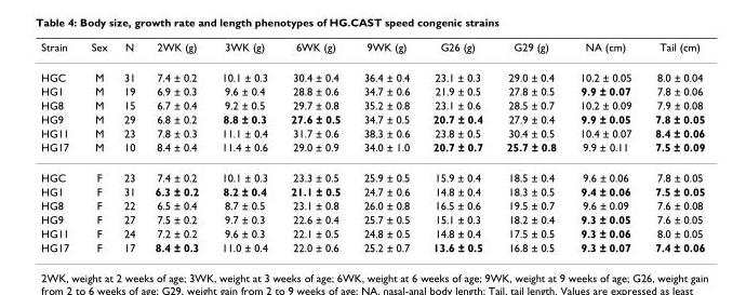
<table><thead><tr><td>Strain</td><td>Sex</td><td>N</td><td>2WK (g)</td><td>3WK (g)</td><td>6WK (g)</td><td>9WK (g)</td><td>G26 (g)</td><td>G29 (g)</td><td>NA (cm)</td><td>Tail (cm)</td></tr></thead><tbody><tr><td>HGC</td><td>M</td><td>31</td><td>7.4 ± 0.2</td><td>10.1 ± 0.3</td><td>30.4 ± 0.4</td><td>36.4 ± 0.4</td><td>23.1 ± 0.3</td><td>29.0 ± 0.4</td><td>10.2 ± 0.05</td><td>8.0 ± 0.04</td></tr><tr><td>HG1</td><td>M</td><td>19</td><td>6.9 ± 0.3</td><td>9.6 ± 0.4</td><td>28.8 ± 0.6</td><td>34.7 ± 0.6</td><td>21.9 ± 0.5</td><td>27.8 ± 0.5</td><td>9.9 ± 0.07</td><td>7.8 ± 0.06</td></tr><tr><td>HG8</td><td>M</td><td>15</td><td>6.7 ± 0.4</td><td>9.2 ± 0.5</td><td>29.7 ± 0.8</td><td>35.2 ± 0.8</td><td>23.1 ± 0.6</td><td>28.5 ± 0.7</td><td>10.2 ± 0.09</td><td>7.9 ± 0.08</td></tr><tr><td>HG9</td><td>M</td><td>29</td><td>6.8 ± 0.2</td><td>8.8 ± 0.3</td><td>27.6 ± 0.5</td><td>34.7 ± 0.5</td><td>20.7 ± 0.4</td><td>27.9 ± 0.4</td><td>9.9 ± 0.05</td><td>7.8 ± 0.05</td></tr><tr><td>HG11</td><td>M</td><td>23</td><td>7.8 ± 0.3</td><td>11.1 ± 0.4</td><td>31.7 ± 0.6</td><td>38.3 ± 0.6</td><td>23.8 ± 0.5</td><td>30.4 ± 0.5</td><td>10.4 ± 0.07</td><td>8.4 ± 0.06</td></tr><tr><td>HG17</td><td>M</td><td>10</td><td>8.4 ± 0.4</td><td>11.4 ± 0.6</td><td>29.0 ± 0.9</td><td>34.0 ± 1.0</td><td>20.7 ± 0.7</td><td>25.7 ± 0.8</td><td>9.9 ± 0.11</td><td>7.5 ± 0.09</td></tr><tr><td>HGC</td><td>F</td><td>23</td><td>7.4 ± 0.2</td><td>10.1 ± 0.3</td><td>23.3 ± 0.5</td><td>25.9 ± 0.5</td><td>15.9 ± 0.4</td><td>18.5 ± 0.4</td><td>9.6 ± 0.06</td><td>7.8 ± 0.05</td></tr><tr><td>HG1</td><td>F</td><td>31</td><td>6.3 ± 0.2</td><td>8.2 ± 0.4</td><td>21.1 ± 0.5</td><td>24.7 ± 0.6</td><td>14.8 ± 0.4</td><td>18.3 ± 0.5</td><td>9.4 ± 0.06</td><td>7.5 ± 0.05</td></tr><tr><td>HG8</td><td>F</td><td>22</td><td>6.5 ± 0.4</td><td>8.7 ± 0.5</td><td>23.1 ± 0.8</td><td>26.0 ± 0.8</td><td>16.5 ± 0.6</td><td>19.5 ± 0.7</td><td>9.6 ± 0.09</td><td>7.6 ± 0.08</td></tr><tr><td>HG9</td><td>F</td><td>27</td><td>7.5 ± 0.2</td><td>9.7 ± 0.3</td><td>22.6 ± 0.4</td><td>25.7 ± 0.5</td><td>15.1 ± 0.3</td><td>18.2 ± 0.4</td><td>9.3 ± 0.05</td><td>7.6 ± 0.05</td></tr><tr><td>HG11</td><td>F</td><td>24</td><td>7.2 ± 0.2</td><td>9.6 ± 0.3</td><td>22.1 ± 0.5</td><td>24.8 ± 0.5</td><td>14.8 ± 0.4</td><td>17.5 ± 0.5</td><td>9.3 ± 0.06</td><td>8.0 ± 0.05</td></tr><tr><td>HG17</td><td>F</td><td>17</td><td>8.4 ± 0.3</td><td>11.0 ± 0.4</td><td>22.0 ± 0.6</td><td>25.2 ± 0.7</td><td>13.6 ± 0.5</td><td>16.8 ± 0.5</td><td>9.3 ± 0.07</td><td>7.4 ± 0.06</td></tr></tbody></table>